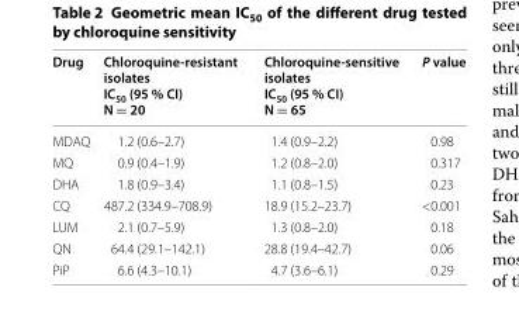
<table><thead><tr><td>Drug</td><td>Chloroquine-resistant isolates IC<sub>50</sub> (95 % CI) N = 20</td><td>Chloroquine-sensitive isolates IC<sub>50</sub> (95 % CI) N = 65</td><td>P value</td></tr></thead><tbody><tr><td>MDAQ</td><td>1.2 (0.6–2.7)</td><td>1.4 (0.9–2.2)</td><td>0.98</td></tr><tr><td>MQ</td><td>0.9 (0.4–1.9)</td><td>1.2 (0.8–2.0)</td><td>0.317</td></tr><tr><td>DHA</td><td>1.8 (0.9–3.4)</td><td>1.1 (0.8–1.5)</td><td>0.23</td></tr><tr><td>CQ</td><td>487.2 (334.9–708.9)</td><td>18.9 (15.2–23.7)</td><td>&lt;0.001</td></tr><tr><td>LUM</td><td>2.1 (0.7–5.9)</td><td>1.3 (0.8–2.0)</td><td>0.18</td></tr><tr><td>QN</td><td>64.4 (29.1–142.1)</td><td>28.8 (19.4–42.7)</td><td>0.06</td></tr><tr><td>PiP</td><td>6.6 (4.3–10.1)</td><td>4.7 (3.6–6.1)</td><td>0.29</td></tr></tbody></table>